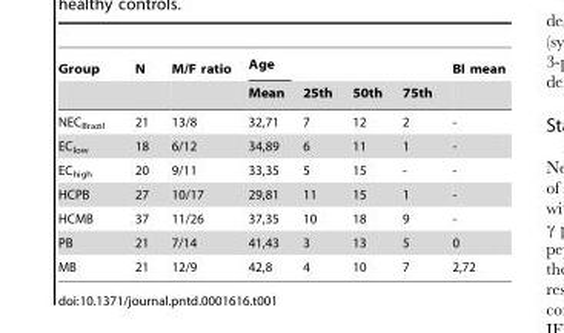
<table><thead><tr><td rowspan="2">Group</td><td rowspan="2">N</td><td rowspan="2">M/F ratio</td><td rowspan="2">Age Mean</td><td rowspan="2">25th</td><td rowspan="2">50th</td><td rowspan="2">75th</td><td rowspan="2">BI mean</td></tr><tr></tr></thead><tbody><tr><td>NEC<sub>Brazil</sub></td><td>21</td><td>13/8</td><td>32,71</td><td>7</td><td>12</td><td>2</td><td>-</td></tr><tr><td>EC<sub>low</sub></td><td>18</td><td>6/12</td><td>34,89</td><td>6</td><td>11</td><td>1</td><td>-</td></tr><tr><td>EC<sub>high</sub></td><td>20</td><td>9/11</td><td>33,35</td><td>5</td><td>15</td><td>-</td><td>-</td></tr><tr><td>HCPB</td><td>27</td><td>10/17</td><td>29,81</td><td>11</td><td>15</td><td>1</td><td>-</td></tr><tr><td>HCMB</td><td>37</td><td>11/26</td><td>37,35</td><td>10</td><td>18</td><td>9</td><td>-</td></tr><tr><td>PB</td><td>21</td><td>7/14</td><td>41,43</td><td>3</td><td>13</td><td>5</td><td>0</td></tr><tr><td>MB</td><td>21</td><td>12/9</td><td>42,8</td><td>4</td><td>10</td><td>7</td><td>2,72</td></tr></tbody></table>